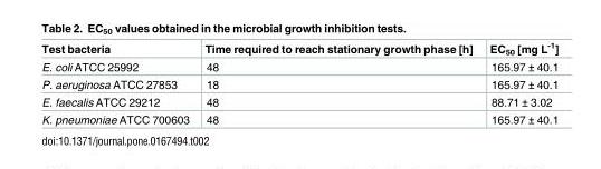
<table><thead><tr><td>Test bacteria</td><td>Time required to reach stationary growth phase [h]</td><td>EC<sub>50</sub> [mg L<sup>-1</sup>]</td></tr></thead><tbody><tr><td>E. coli ATCC 25992</td><td>48</td><td>165.97 ± 40.1</td></tr><tr><td>P. aeruginosa ATCC 27853</td><td>18</td><td>165.97 ± 40.1</td></tr><tr><td>E. faecalis ATCC 29212</td><td>48</td><td>88.71 ± 3.02</td></tr><tr><td>K. pneumoniae ATCC 700603</td><td>48</td><td>165.97 ± 40.1</td></tr></tbody></table>